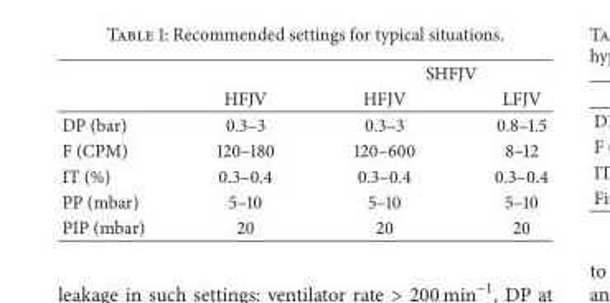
<table><thead><tr><td rowspan="2"></td><td rowspan="2">HFJV</td><td colspan="2">SHFJV</td></tr><tr><td>HFJV</td><td>LFJV</td></tr></thead><tbody><tr><td>DP (bar)</td><td>0.3–3</td><td>0.3–3</td><td>0.8–1.5</td></tr><tr><td>F (CPM)</td><td>120–180</td><td>120–600</td><td>8–12</td></tr><tr><td>IT (%)</td><td>0.3–0.4</td><td>0.3–0.4</td><td>0.3–0.4</td></tr><tr><td>PP (mbar)</td><td>5–10</td><td>5–10</td><td>5–10</td></tr><tr><td>PIP (mbar)</td><td>20</td><td>20</td><td>20</td></tr></tbody></table>